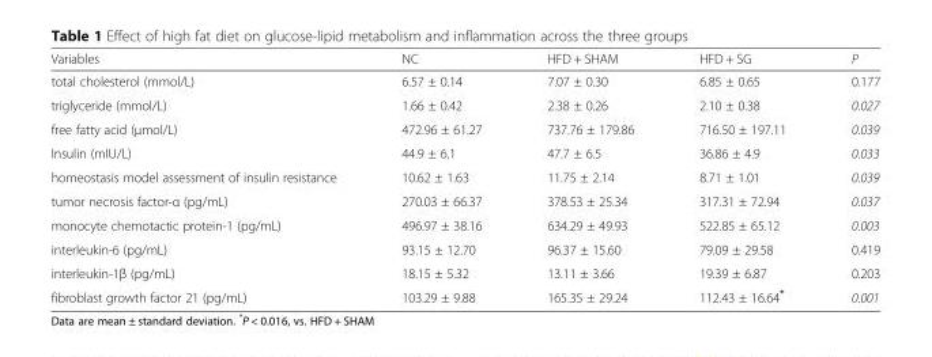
<table><thead><tr><td>Variables</td><td>NC</td><td>HFD + SHAM</td><td>HFD + SG</td><td>P</td></tr></thead><tbody><tr><td>total cholesterol (mmol/L)</td><td>6.57 ± 0.14</td><td>7.07 ± 0.30</td><td>6.85 ± 0.65</td><td>0.177</td></tr><tr><td>triglyceride (mmol/L)</td><td>1.66 ± 0.42</td><td>2.38 ± 0.26</td><td>2.10 ± 0.38</td><td>0.027</td></tr><tr><td>free fatty acid (μmol/L)</td><td>472.96 ± 61.27</td><td>737.76 ± 179.86</td><td>716.50 ± 197.11</td><td>0.039</td></tr><tr><td>Insulin (mIU/L)</td><td>44.9 ± 6.1</td><td>47.7 ± 6.5</td><td>36.86 ± 4.9</td><td>0.033</td></tr><tr><td>homeostasis model assessment of insulin resistance</td><td>10.62 ± 1.63</td><td>11.75 ± 2.14</td><td>8.71 ± 1.01</td><td>0.039</td></tr><tr><td>tumor necrosis factor-α (pg/mL)</td><td>270.03 ± 66.37</td><td>378.53 ± 25.34</td><td>317.31 ± 72.94</td><td>0.037</td></tr><tr><td>monocyte chemotactic protein-1 (pg/mL)</td><td>496.97 ± 38.16</td><td>634.29 ± 49.93</td><td>522.85 ± 65.12</td><td>0.003</td></tr><tr><td>interleukin-6 (pg/mL)</td><td>93.15 ± 12.70</td><td>96.37 ± 15.60</td><td>79.09 ± 29.58</td><td>0.419</td></tr><tr><td>interleukin-1β (pg/mL)</td><td>18.15 ± 5.32</td><td>13.11 ± 3.66</td><td>19.39 ± 6.87</td><td>0.203</td></tr><tr><td>fibroblast growth factor 21 (pg/mL)</td><td>103.29 ± 9.88</td><td>165.35 ± 29.24</td><td>112.43 ± 16.64*</td><td>0.001</td></tr></tbody></table>